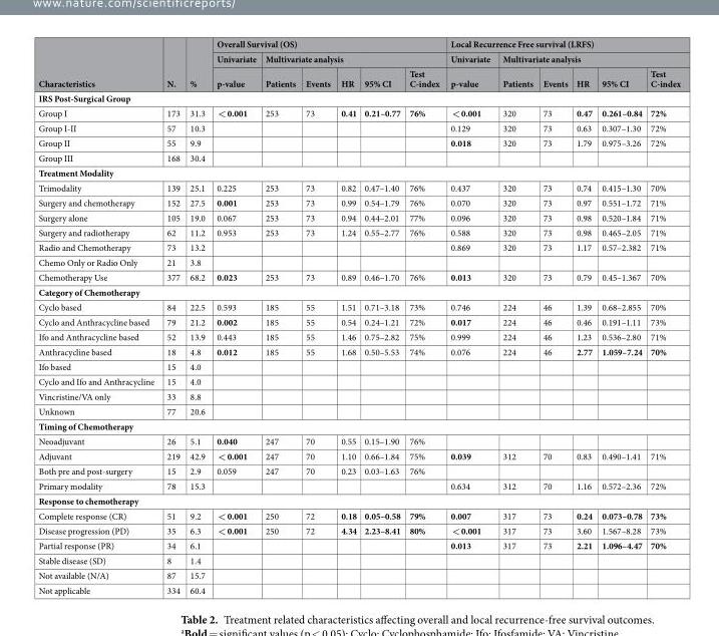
<table><thead><tr><td rowspan="3">Characteristics</td><td rowspan="3">N.</td><td rowspan="3">%</td><td colspan="6">Overall Survival (OS)</td><td colspan="6">Local Recurrence Free survival (LRFS)</td></tr><tr><td rowspan="2">Univariate p-value</td><td colspan="5">Multivariate analysis</td><td rowspan="2">Univariate p-value</td><td colspan="5">Multivariate analysis</td></tr><tr><td>Patients</td><td>Events</td><td>HR</td><td>95% CI</td><td>Test C-index</td><td>Patients</td><td>Events</td><td>HR</td><td>95% CI</td><td>Test C-index</td></tr></thead><tbody><tr><td colspan="15">IRS Post-Surgical Group</td></tr><tr><td>Group I</td><td>173</td><td>31.3</td><td>&lt; 0.001</td><td>253</td><td>73</td><td>0.41</td><td>0.21–0.77</td><td>76%</td><td>&lt; 0.001</td><td>320</td><td>73</td><td>0.47</td><td>0.261–0.84</td><td>72%</td></tr><tr><td>Group I-II</td><td>57</td><td>10.3</td><td></td><td></td><td></td><td></td><td></td><td></td><td>0.129</td><td>320</td><td>73</td><td>0.63</td><td>0.307–1.30</td><td>72%</td></tr><tr><td>Group II</td><td>55</td><td>9.9</td><td></td><td></td><td></td><td></td><td></td><td></td><td>0.018</td><td>320</td><td>73</td><td>1.79</td><td>0.975–3.26</td><td>72%</td></tr><tr><td>Group III</td><td>168</td><td>30.4</td><td></td><td></td><td></td><td></td><td></td><td></td><td></td><td></td><td></td><td></td><td></td><td></td></tr><tr><td colspan="15">Treatment Modality</td></tr><tr><td>Trimodality</td><td>139</td><td>25.1</td><td>0.225</td><td>253</td><td>73</td><td>0.82</td><td>0.47–1.40</td><td>76%</td><td>0.437</td><td>320</td><td>73</td><td>0.74</td><td>0.415–1.30</td><td>70%</td></tr><tr><td>Surgery and chemotherapy</td><td>152</td><td>27.5</td><td>0.001</td><td>253</td><td>73</td><td>0.99</td><td>0.54–1.79</td><td>76%</td><td>0.070</td><td>320</td><td>73</td><td>0.97</td><td>0.551–1.72</td><td>71%</td></tr><tr><td>Surgery alone</td><td>105</td><td>19.0</td><td>0.067</td><td>253</td><td>73</td><td>0.94</td><td>0.44–2.01</td><td>77%</td><td>0.096</td><td>320</td><td>73</td><td>0.98</td><td>0.520–1.84</td><td>71%</td></tr><tr><td>Surgery and radiotherapy</td><td>62</td><td>11.2</td><td>0.953</td><td>253</td><td>73</td><td>1.24</td><td>0.55–2.77</td><td>76%</td><td>0.588</td><td>320</td><td>73</td><td>0.98</td><td>0.465–2.05</td><td>71%</td></tr><tr><td>Radio and Chemotherapy</td><td>73</td><td>13.2</td><td></td><td></td><td></td><td></td><td></td><td></td><td>0.869</td><td>320</td><td>73</td><td>1.17</td><td>0.57–2.382</td><td>71%</td></tr><tr><td>Chemo Only or Radio Only</td><td>21</td><td>3.8</td><td></td><td></td><td></td><td></td><td></td><td></td><td></td><td></td><td></td><td></td><td></td><td></td></tr><tr><td>Chemotherapy Use</td><td>377</td><td>68.2</td><td>0.023</td><td>253</td><td>73</td><td>0.89</td><td>0.46–1.70</td><td>76%</td><td>0.013</td><td>320</td><td>73</td><td>0.79</td><td>0.45–1.367</td><td>70%</td></tr><tr><td colspan="15">Category of Chemotherapy</td></tr><tr><td>Cyclo based</td><td>84</td><td>22.5</td><td>0.593</td><td>185</td><td>55</td><td>1.51</td><td>0.71–3.18</td><td>73%</td><td>0.746</td><td>224</td><td>46</td><td>1.39</td><td>0.68–2.855</td><td>70%</td></tr><tr><td>Cyclo and Anthracycline based</td><td>79</td><td>21.2</td><td>0.002</td><td>185</td><td>55</td><td>0.54</td><td>0.24–1.21</td><td>72%</td><td>0.017</td><td>224</td><td>46</td><td>0.46</td><td>0.191–1.11</td><td>73%</td></tr><tr><td>Ifo and Anthracycline based</td><td>52</td><td>13.9</td><td>0.443</td><td>185</td><td>55</td><td>1.46</td><td>0.75–2.82</td><td>75%</td><td>0.999</td><td>224</td><td>46</td><td>1.23</td><td>0.536–2.80</td><td>71%</td></tr><tr><td>Anthracycline based</td><td>18</td><td>4.8</td><td>0.012</td><td>185</td><td>55</td><td>1.68</td><td>0.50–5.53</td><td>74%</td><td>0.076</td><td>224</td><td>46</td><td>2.77</td><td>1.059–7.24</td><td>70%</td></tr><tr><td>Ifo based</td><td>15</td><td>4.0</td><td></td><td></td><td></td><td></td><td></td><td></td><td></td><td></td><td></td><td></td><td></td><td></td></tr><tr><td>Cyclo and Ifo and Anthracycline</td><td>15</td><td>4.0</td><td></td><td></td><td></td><td></td><td></td><td></td><td></td><td></td><td></td><td></td><td></td><td></td></tr><tr><td>Vincristine/VA only</td><td>33</td><td>8.8</td><td></td><td></td><td></td><td></td><td></td><td></td><td></td><td></td><td></td><td></td><td></td><td></td></tr><tr><td>Unknown</td><td>77</td><td>20.6</td><td></td><td></td><td></td><td></td><td></td><td></td><td></td><td></td><td></td><td></td><td></td><td></td></tr><tr><td colspan="15">Timing of Chemotherapy</td></tr><tr><td>Neoadjuvant</td><td>26</td><td>5.1</td><td>0.040</td><td>247</td><td>70</td><td>0.55</td><td>0.15–1.90</td><td>76%</td><td></td><td></td><td></td><td></td><td></td><td></td></tr><tr><td>Adjuvant</td><td>219</td><td>42.9</td><td>&lt; 0.001</td><td>247</td><td>70</td><td>1.10</td><td>0.66–1.84</td><td>75%</td><td>0.039</td><td>312</td><td>70</td><td>0.83</td><td>0.490–1.41</td><td>71%</td></tr><tr><td>Both pre and post-surgery</td><td>15</td><td>2.9</td><td>0.059</td><td>247</td><td>70</td><td>0.23</td><td>0.03–1.63</td><td>76%</td><td></td><td></td><td></td><td></td><td></td><td></td></tr><tr><td>Primary modality</td><td>78</td><td>15.3</td><td></td><td></td><td></td><td></td><td></td><td></td><td>0.634</td><td>312</td><td>70</td><td>1.16</td><td>0.572–2.36</td><td>72%</td></tr><tr><td colspan="15">Response to chemotherapy</td></tr><tr><td>Complete response (CR)</td><td>51</td><td>9.2</td><td>&lt; 0.001</td><td>250</td><td>72</td><td>0.18</td><td>0.05–0.58</td><td>79%</td><td>0.007</td><td>317</td><td>73</td><td>0.24</td><td>0.073–0.78</td><td>73%</td></tr><tr><td>Disease progression (PD)</td><td>35</td><td>6.3</td><td>&lt; 0.001</td><td>250</td><td>72</td><td>4.34</td><td>2.23–8.41</td><td>80%</td><td>&lt; 0.001</td><td>317</td><td>73</td><td>3.60</td><td>1.567–8.28</td><td>73%</td></tr><tr><td>Partial response (PR)</td><td>34</td><td>6.1</td><td></td><td></td><td></td><td></td><td></td><td></td><td>0.013</td><td>317</td><td>73</td><td>2.21</td><td>1.096–4.47</td><td>70%</td></tr><tr><td>Stable disease (SD)</td><td>8</td><td>1.4</td><td></td><td></td><td></td><td></td><td></td><td></td><td></td><td></td><td></td><td></td><td></td><td></td></tr><tr><td>Not available (N/A)</td><td>87</td><td>15.7</td><td></td><td></td><td></td><td></td><td></td><td></td><td></td><td></td><td></td><td></td><td></td><td></td></tr><tr><td>Not applicable</td><td>334</td><td>60.4</td><td></td><td></td><td></td><td></td><td></td><td></td><td></td><td></td><td></td><td></td><td></td><td></td></tr></tbody></table>